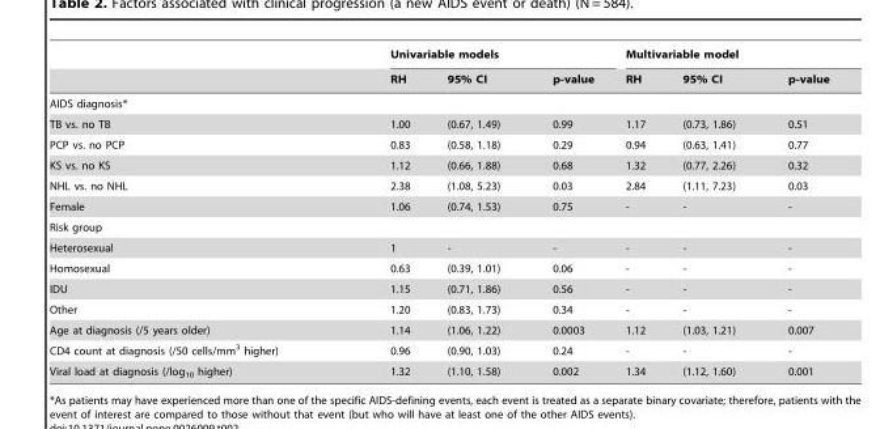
<table><thead><tr><td rowspan="2"></td><td colspan="3">Univariable models</td><td colspan="3">Multivariable model</td></tr><tr><td>RH</td><td>95% CI</td><td>p-value</td><td>RH</td><td>95% CI</td><td>p-value</td></tr></thead><tbody><tr><td colspan="7">AIDS diagnosis*</td></tr><tr><td>TB vs. no TB</td><td>1.00</td><td>(0.67, 1.49)</td><td>0.99</td><td>1.17</td><td>(0.73, 1.86)</td><td>0.51</td></tr><tr><td>PCP vs. no PCP</td><td>0.83</td><td>(0.58, 1.18)</td><td>0.29</td><td>0.94</td><td>(0.63, 1.41)</td><td>0.77</td></tr><tr><td>KS vs. no KS</td><td>1.12</td><td>(0.66, 1.88)</td><td>0.68</td><td>1.32</td><td>(0.77, 2.26)</td><td>0.32</td></tr><tr><td>NHL vs. no NHL</td><td>2.38</td><td>(1.08, 5.23)</td><td>0.03</td><td>2.84</td><td>(1.11, 7.23)</td><td>0.03</td></tr><tr><td>Female</td><td>1.06</td><td>(0.74, 1.53)</td><td>0.75</td><td>-</td><td>-</td><td>-</td></tr><tr><td colspan="7">Risk group</td></tr><tr><td>Heterosexual</td><td>1</td><td>-</td><td>-</td><td>-</td><td>-</td><td>-</td></tr><tr><td>Homosexual</td><td>0.63</td><td>(0.39, 1.01)</td><td>0.06</td><td>-</td><td>-</td><td>-</td></tr><tr><td>IDU</td><td>1.15</td><td>(0.71, 1.86)</td><td>0.56</td><td>-</td><td>-</td><td>-</td></tr><tr><td>Other</td><td>1.20</td><td>(0.83, 1.73)</td><td>0.34</td><td>-</td><td>-</td><td>-</td></tr><tr><td>Age at diagnosis (/5 years older)</td><td>1.14</td><td>(1.06, 1.22)</td><td>0.0003</td><td>1.12</td><td>(1.03, 1.21)</td><td>0.007</td></tr><tr><td>CD4 count at diagnosis (/50 cells/mm<sup>3</sup> higher)</td><td>0.96</td><td>(0.90, 1.03)</td><td>0.24</td><td>-</td><td>-</td><td>-</td></tr><tr><td>Viral load at diagnosis (/log<sub>10</sub> higher)</td><td>1.32</td><td>(1.10, 1.58)</td><td>0.002</td><td>1.34</td><td>(1.12, 1.60)</td><td>0.001</td></tr></tbody></table>